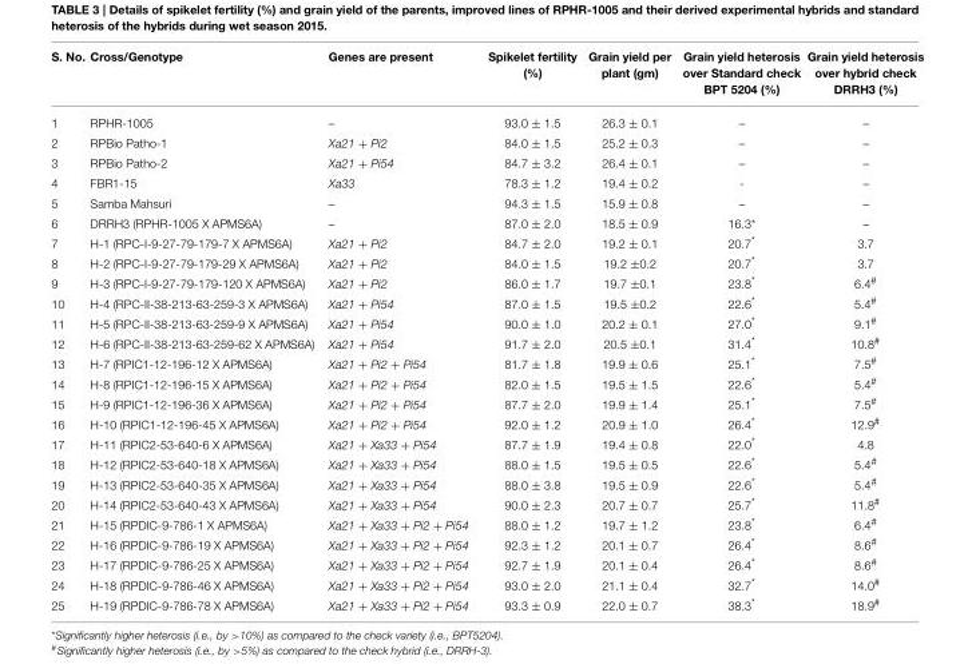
<table><thead><tr><td>S. No.</td><td>Cross/Genotype</td><td>Genes are present</td><td>Spikelet fertility (%)</td><td>Grain yield per plant (gm)</td><td>Grain yield heterosis over Standard check BPT 5204 (%)</td><td>Grain yield heterosis over hybrid check DRRH3 (%)</td></tr></thead><tbody><tr><td>1</td><td>RPHR-1005</td><td>–</td><td>93.0 ± 1.5</td><td>26.3 ± 0.1</td><td>–</td><td>–</td></tr><tr><td>2</td><td>RPBio Patho-1</td><td>Xa21 + Pi2</td><td>84.0 ± 1.5</td><td>25.2 ± 0.3</td><td>–</td><td>–</td></tr><tr><td>3</td><td>RPBio Patho-2</td><td>Xa21 + Pi54</td><td>84.7 ± 3.2</td><td>26.4 ± 0.1</td><td>–</td><td>–</td></tr><tr><td>4</td><td>FBR1-15</td><td>Xa33</td><td>78.3 ± 1.2</td><td>19.4 ± 0.2</td><td>-</td><td>–</td></tr><tr><td>5</td><td>Samba Mahsuri</td><td>–</td><td>94.3 ± 1.5</td><td>15.9 ± 0.8</td><td>–</td><td>–</td></tr><tr><td>6</td><td>DRRH3 (RPHR-1005 X APMS6A)</td><td>–</td><td>87.0 ± 2.0</td><td>18.5 ± 0.9</td><td>16.3*</td><td>–</td></tr><tr><td>7</td><td>H-1 (RPC-I-9-27-79-179-7 X APMS6A)</td><td>Xa21 + Pi2</td><td>84.7 ± 2.0</td><td>19.2 ± 0.1</td><td>20.7*</td><td>3.7</td></tr><tr><td>8</td><td>H-2 (RPC-I-9-27-79-179-29 X APMS6A)</td><td>Xa21 + Pi2</td><td>84.0 ± 1.5</td><td>19.2 ±0.2</td><td>20.7*</td><td>3.7</td></tr><tr><td>9</td><td>H-3 (RPC-I-9-27-79-179-120 X APMS6A)</td><td>Xa21 + Pi2</td><td>86.0 ± 1.7</td><td>19.7 ±0.1</td><td>23.8*</td><td>6.4#</td></tr><tr><td>10</td><td>H-4 (RPC-II-38-213-63-259-3 X APMS6A)</td><td>Xa21 + Pi54</td><td>87.0 ± 1.5</td><td>19.5 ±0.2</td><td>22.6*</td><td>5.4#</td></tr><tr><td>11</td><td>H-5 (RPC-II-38-213-63-259-9 X APMS6A)</td><td>Xa21 + Pi54</td><td>90.0 ± 1.0</td><td>20.2 ± 0.1</td><td>27.0*</td><td>9.1#</td></tr><tr><td>12</td><td>H-6 (RPC-II-38-213-63-259-62 X APMS6A)</td><td>Xa21 + Pi54</td><td>91.7 ± 2.0</td><td>20.5 ±0.1</td><td>31.4*</td><td>10.8#</td></tr><tr><td>13</td><td>H-7 (RPIC1-12-196-12 X APMS6A)</td><td>Xa21 + Pi2 + Pi54</td><td>81.7 ± 1.8</td><td>19.9 ± 0.6</td><td>25.1*</td><td>7.5#</td></tr><tr><td>14</td><td>H-8 (RPIC1-12-196-15 X APMS6A)</td><td>Xa21 + Pi2 + Pi54</td><td>82.0 ± 1.5</td><td>19.5 ± 1.5</td><td>22.6*</td><td>5.4#</td></tr><tr><td>15</td><td>H-9 (RPIC1-12-196-36 X APMS6A)</td><td>Xa21 + Pi2 + Pi54</td><td>87.7 ± 2.0</td><td>19.9 ± 1.4</td><td>25.1*</td><td>7.5#</td></tr><tr><td>16</td><td>H-10 (RPIC1-12-196-45 X APMS6A)</td><td>Xa21 + Pi2 + Pi54</td><td>92.0 ± 1.2</td><td>20.9 ± 1.0</td><td>26.4*</td><td>12.9#</td></tr><tr><td>17</td><td>H-11 (RPIC2-53-640-6 X APMS6A)</td><td>Xa21 + Xa33 + Pi54</td><td>87.7 ± 1.9</td><td>19.4 ± 0.8</td><td>22.0*</td><td>4.8</td></tr><tr><td>18</td><td>H-12 (RPIC2-53-640-18 X APMS6A)</td><td>Xa21 + Xa33 + Pi54</td><td>88.0 ± 1.5</td><td>19.5 ± 0.5</td><td>22.6*</td><td>5.4#</td></tr><tr><td>19</td><td>H-13 (RPIC2-53-640-35 X APMS6A)</td><td>Xa21 + Xa33 + Pi54</td><td>88.0 ± 3.8</td><td>19.5 ± 0.9</td><td>22.6*</td><td>5.4#</td></tr><tr><td>20</td><td>H-14 (RPIC2-53-640-43 X APMS6A)</td><td>Xa21 + Xa33 + Pi54</td><td>90.0 ± 2.3</td><td>20.7 ± 0.7</td><td>25.7*</td><td>11.8#</td></tr><tr><td>21</td><td>H-15 (RPDIC-9-786-1 X APMS6A)</td><td>Xa21 + Xa33 + Pi2 + Pi54</td><td>88.0 ± 1.2</td><td>19.7 ± 1.2</td><td>23.8*</td><td>6.4#</td></tr><tr><td>22</td><td>H-16 (RPDIC-9-786-19 X APMS6A)</td><td>Xa21 + Xa33 + Pi2 + Pi54</td><td>92.3 ± 1.2</td><td>20.1 ± 0.7</td><td>26.4*</td><td>8.6#</td></tr><tr><td>23</td><td>H-17 (RPDIC-9-786-25 X APMS6A)</td><td>Xa21 + Xa33 + Pi2 + Pi54</td><td>92.7 ± 1.9</td><td>20.1 ± 0.4</td><td>26.4*</td><td>8.6#</td></tr><tr><td>24</td><td>H-18 (RPDIC-9-786-46 X APMS6A)</td><td>Xa21 + Xa33 + Pi2 + Pi54</td><td>93.0 ± 2.0</td><td>21.1 ± 0.4</td><td>32.7*</td><td>14.0#</td></tr><tr><td>25</td><td>H-19 (RPDIC-9-786-78 X APMS6A)</td><td>Xa21 + Xa33 + Pi2 + Pi54</td><td>93.3 ± 0.9</td><td>22.0 ± 0.7</td><td>38.3*</td><td>18.9#</td></tr></tbody></table>